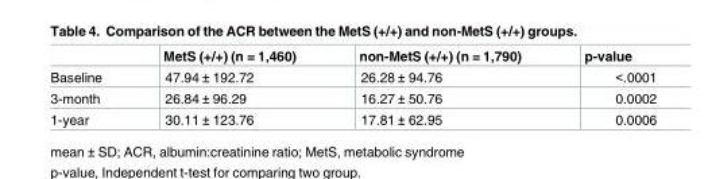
<table><thead><tr><td></td><td>MetS (+/+) (n = 1,460)</td><td>non-MetS (+/+) (n = 1,790)</td><td>p-value</td></tr></thead><tbody><tr><td>Baseline</td><td>47.94 ± 192.72</td><td>26.28 ± 94.76</td><td>&lt;.0001</td></tr><tr><td>3-month</td><td>26.84 ± 96.29</td><td>16.27 ± 50.76</td><td>0.0002</td></tr><tr><td>1-year</td><td>30.11 ± 123.76</td><td>17.81 ± 62.95</td><td>0.0006</td></tr></tbody></table>